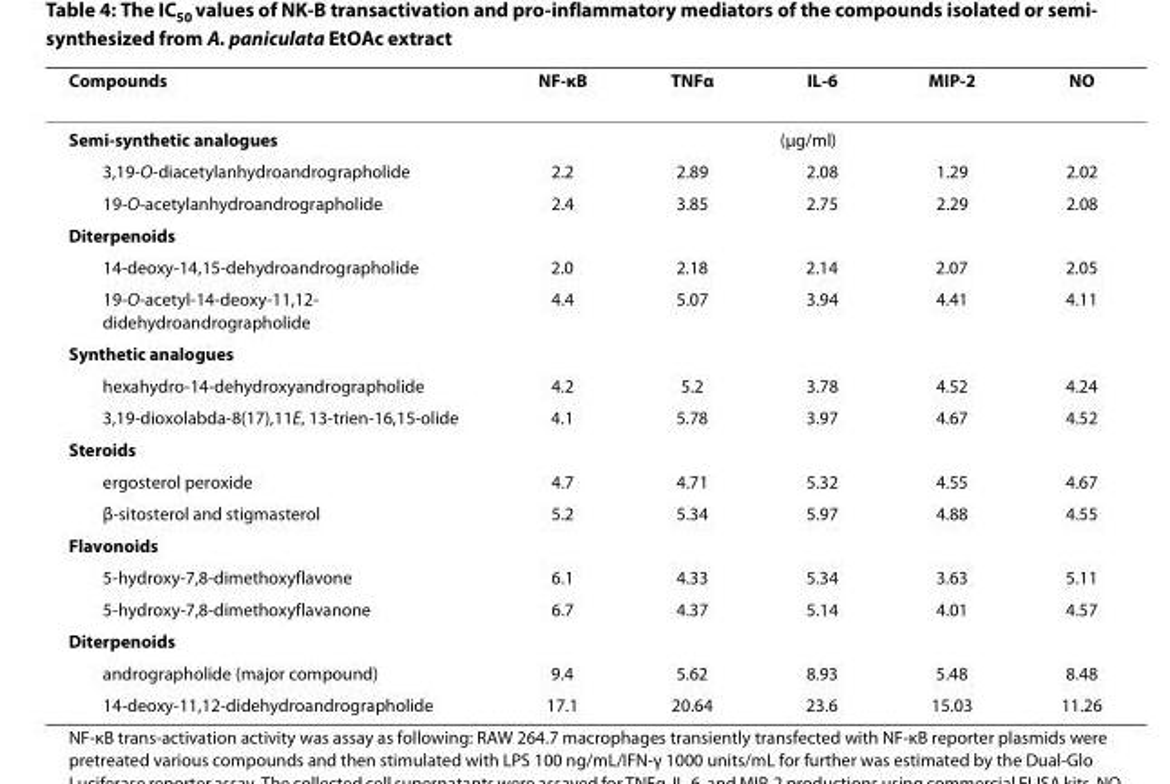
<table><thead><tr><td>Compounds</td><td>NF-κB</td><td>TNFα</td><td>IL-6</td><td>MIP-2</td><td>NO</td></tr></thead><tbody><tr><td>Semi-synthetic analogues</td><td></td><td></td><td>(μg/ml)</td><td></td><td></td></tr><tr><td>3,19-O-diacetylanhydroandrographolide</td><td>2.2</td><td>2.89</td><td>2.08</td><td>1.29</td><td>2.02</td></tr><tr><td>19-O-acetylanhydroandrographolide</td><td>2.4</td><td>3.85</td><td>2.75</td><td>2.29</td><td>2.08</td></tr><tr><td colspan="6">Diterpenoids</td></tr><tr><td>14-deoxy-14,15-dehydroandrographolide</td><td>2.0</td><td>2.18</td><td>2.14</td><td>2.07</td><td>2.05</td></tr><tr><td>19-O-acetyl-14-deoxy-11,12- didehydroandrographolide</td><td>4.4</td><td>5.07</td><td>3.94</td><td>4.41</td><td>4.11</td></tr><tr><td colspan="6">Synthetic analogues</td></tr><tr><td>hexahydro-14-dehydroxyandrographolide</td><td>4.2</td><td>5.2</td><td>3.78</td><td>4.52</td><td>4.24</td></tr><tr><td>3,19-dioxolabda-8(17),11E, 13-trien-16,15-olide</td><td>4.1</td><td>5.78</td><td>3.97</td><td>4.67</td><td>4.52</td></tr><tr><td colspan="6">Steroids</td></tr><tr><td>ergosterol peroxide</td><td>4.7</td><td>4.71</td><td>5.32</td><td>4.55</td><td>4.67</td></tr><tr><td>β-sitosterol and stigmasterol</td><td>5.2</td><td>5.34</td><td>5.97</td><td>4.88</td><td>4.55</td></tr><tr><td colspan="6">Flavonoids</td></tr><tr><td>5-hydroxy-7,8-dimethoxyflavone</td><td>6.1</td><td>4.33</td><td>5.34</td><td>3.63</td><td>5.11</td></tr><tr><td>5-hydroxy-7,8-dimethoxyflavanone</td><td>6.7</td><td>4.37</td><td>5.14</td><td>4.01</td><td>4.57</td></tr><tr><td colspan="6">Diterpenoids</td></tr><tr><td>andrographolide (major compound)</td><td>9.4</td><td>5.62</td><td>8.93</td><td>5.48</td><td>8.48</td></tr><tr><td>14-deoxy-11,12-didehydroandrographolide</td><td>17.1</td><td>20.64</td><td>23.6</td><td>15.03</td><td>11.26</td></tr></tbody></table>